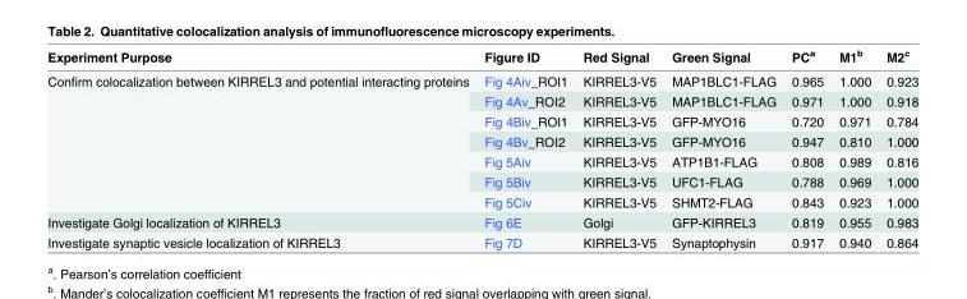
<table><thead><tr><td>Experiment Purpose</td><td>Figure ID</td><td>Red Signal</td><td>Green Signal</td><td>PC<sup>a</sup></td><td>M1<sup>b</sup></td><td>M2<sup>c</sup></td></tr></thead><tbody><tr><td rowspan="7">Confirm colocalization between KIRREL3 and potential interacting proteins</td><td>Fig 4Aiv_ROI1</td><td>KIRREL3-V5</td><td>MAP1BLC1-FLAG</td><td>0.965</td><td>1.000</td><td>0.923</td></tr><tr><td>Fig 4Av_ROI2</td><td>KIRREL3-V5</td><td>MAP1BLC1-FLAG</td><td>0.971</td><td>1.000</td><td>0.918</td></tr><tr><td>Fig 4Biv_ROI1</td><td>KIRREL3-V5</td><td>GFP-MYO16</td><td>0.720</td><td>0.971</td><td>0.784</td></tr><tr><td>Fig 4Bv_ROI2</td><td>KIRREL3-V5</td><td>GFP-MYO16</td><td>0.947</td><td>0.810</td><td>1.000</td></tr><tr><td>Fig 5Aiv</td><td>KIRREL3-V5</td><td>ATP1B1-FLAG</td><td>0.808</td><td>0.989</td><td>0.816</td></tr><tr><td>Fig 5Biv</td><td>KIRREL3-V5</td><td>UFC1-FLAG</td><td>0.788</td><td>0.969</td><td>1.000</td></tr><tr><td>Fig 5Civ</td><td>KIRREL3-V5</td><td>SHMT2-FLAG</td><td>0.843</td><td>0.923</td><td>1.000</td></tr><tr><td>Investigate Golgi localization of KIRREL3</td><td>Fig 6E</td><td>Golgi</td><td>GFP-KIRREL3</td><td>0.819</td><td>0.955</td><td>0.983</td></tr><tr><td>Investigate synaptic vesicle localization of KIRREL3</td><td>Fig 7D</td><td>KIRREL3-V5</td><td>Synaptophysin</td><td>0.917</td><td>0.940</td><td>0.864</td></tr></tbody></table>